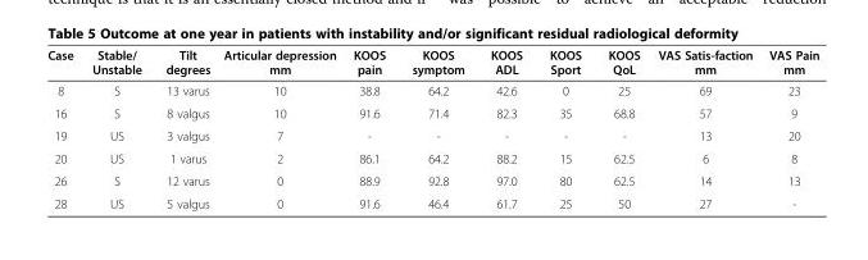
<table><thead><tr><td>Case</td><td>Stable/ Unstable</td><td>Tilt degrees</td><td>Articular depression mm</td><td>KOOS pain</td><td>KOOS symptom</td><td>KOOS ADL</td><td>KOOS Sport</td><td>KOOS QoL</td><td>VAS Satis-faction mm</td><td>VAS Pain mm</td></tr></thead><tbody><tr><td>8</td><td>S</td><td>13 varus</td><td>10</td><td>38.8</td><td>64.2</td><td>42.6</td><td>0</td><td>25</td><td>69</td><td>23</td></tr><tr><td>16</td><td>S</td><td>8 valgus</td><td>10</td><td>91.6</td><td>71.4</td><td>82.3</td><td>35</td><td>68.8</td><td>57</td><td>9</td></tr><tr><td>19</td><td>US</td><td>3 valgus</td><td>7</td><td>-</td><td>-</td><td>-</td><td>-</td><td>-</td><td>13</td><td>20</td></tr><tr><td>20</td><td>US</td><td>1 varus</td><td>2</td><td>86.1</td><td>64.2</td><td>88.2</td><td>15</td><td>62.5</td><td>6</td><td>8</td></tr><tr><td>26</td><td>S</td><td>12 varus</td><td>0</td><td>88.9</td><td>92.8</td><td>97.0</td><td>80</td><td>62.5</td><td>14</td><td>13</td></tr><tr><td>28</td><td>US</td><td>5 valgus</td><td>0</td><td>91.6</td><td>46.4</td><td>61.7</td><td>25</td><td>50</td><td>27</td><td>-</td></tr></tbody></table>